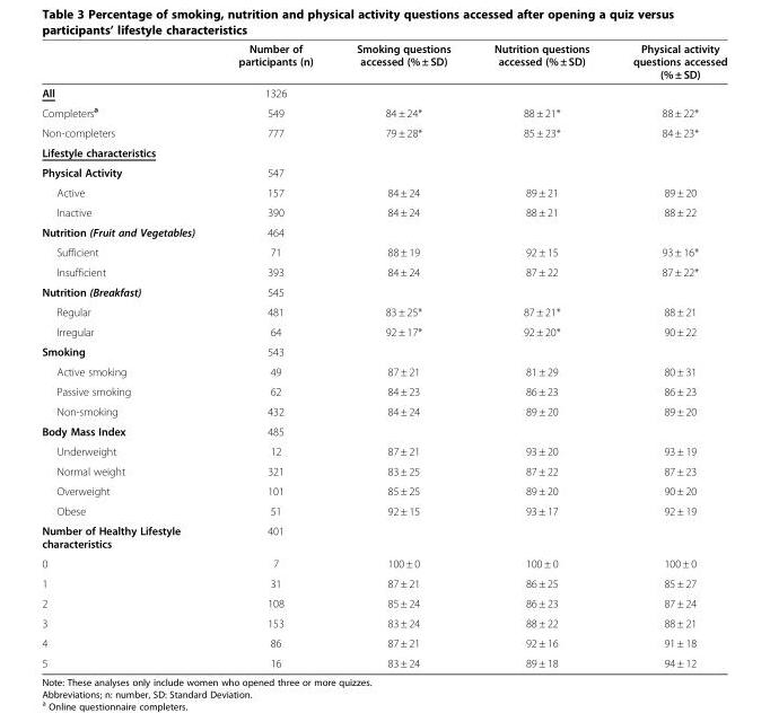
<table><thead><tr><td></td><td>Number of participants (n)</td><td>Smoking questions accessed (% ± SD)</td><td>Nutrition questions accessed (% ± SD)</td><td>Physical activity questions accessed (% ± SD)</td></tr></thead><tbody><tr><td>All</td><td>1326</td><td></td><td></td><td></td></tr><tr><td>Completers<sup>a</sup></td><td>549</td><td>84 ± 24*</td><td>88 ± 21*</td><td>88 ± 22*</td></tr><tr><td>Non-completers</td><td>777</td><td>79 ± 28*</td><td>85 ± 23*</td><td>84 ± 23*</td></tr><tr><td colspan="5">Lifestyle characteristics</td></tr><tr><td>Physical Activity</td><td>547</td><td></td><td></td><td></td></tr><tr><td>Active</td><td>157</td><td>84 ± 24</td><td>89 ± 21</td><td>89 ± 20</td></tr><tr><td>Inactive</td><td>390</td><td>84 ± 24</td><td>88 ± 21</td><td>88 ± 22</td></tr><tr><td>Nutrition (Fruit and Vegetables)</td><td>464</td><td></td><td></td><td></td></tr><tr><td>Sufficient</td><td>71</td><td>88 ± 19</td><td>92 ± 15</td><td>93 ± 16*</td></tr><tr><td>Insufficient</td><td>393</td><td>84 ± 24</td><td>87 ± 22</td><td>87 ± 22*</td></tr><tr><td>Nutrition (Breakfast)</td><td>545</td><td></td><td></td><td></td></tr><tr><td>Regular</td><td>481</td><td>83 ± 25*</td><td>87 ± 21*</td><td>88 ± 21</td></tr><tr><td>Irregular</td><td>64</td><td>92 ± 17*</td><td>92 ± 20*</td><td>90 ± 22</td></tr><tr><td>Smoking</td><td>543</td><td></td><td></td><td></td></tr><tr><td>Active smoking</td><td>49</td><td>87 ± 21</td><td>81 ± 29</td><td>80 ± 31</td></tr><tr><td>Passive smoking</td><td>62</td><td>84 ± 23</td><td>86 ± 23</td><td>86 ± 23</td></tr><tr><td>Non-smoking</td><td>432</td><td>84 ± 24</td><td>89 ± 20</td><td>89 ± 20</td></tr><tr><td>Body Mass Index</td><td>485</td><td></td><td></td><td></td></tr><tr><td>Underweight</td><td>12</td><td>87 ± 21</td><td>93 ± 20</td><td>93 ± 19</td></tr><tr><td>Normal weight</td><td>321</td><td>83 ± 25</td><td>87 ± 22</td><td>87 ± 23</td></tr><tr><td>Overweight</td><td>101</td><td>85 ± 25</td><td>89 ± 20</td><td>90 ± 20</td></tr><tr><td>Obese</td><td>51</td><td>92 ± 15</td><td>93 ± 17</td><td>92 ± 19</td></tr><tr><td>Number of Healthy Lifestyle characteristics</td><td>401</td><td></td><td></td><td></td></tr><tr><td>0</td><td>7</td><td>100 ± 0</td><td>100 ± 0</td><td>100 ± 0</td></tr><tr><td>1</td><td>31</td><td>87 ± 21</td><td>86 ± 25</td><td>85 ± 27</td></tr><tr><td>2</td><td>108</td><td>85 ± 24</td><td>86 ± 23</td><td>87 ± 24</td></tr><tr><td>3</td><td>153</td><td>83 ± 24</td><td>88 ± 22</td><td>88 ± 21</td></tr><tr><td>4</td><td>86</td><td>87 ± 21</td><td>92 ± 16</td><td>91 ± 18</td></tr><tr><td>5</td><td>16</td><td>83 ± 24</td><td>89 ± 18</td><td>94 ± 12</td></tr></tbody></table>